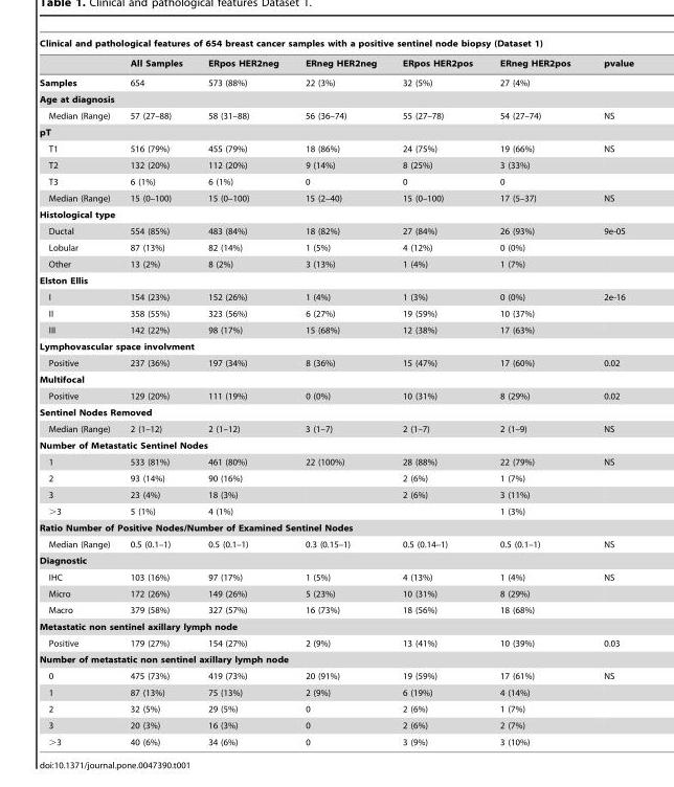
<table><thead><tr><td colspan="7">Clinical and pathological features of 654 breast cancer samples with a positive sentinel node biopsy (Dataset 1)</td></tr><tr><td></td><td>All Samples</td><td>ERpos HER2neg</td><td>ERneg HER2neg</td><td>ERpos HER2pos</td><td>ERneg HER2pos</td><td>pvalue</td></tr></thead><tbody><tr><td>Samples</td><td>654</td><td>573 (88%)</td><td>22 (3%)</td><td>32 (5%)</td><td>27 (4%)</td><td></td></tr><tr><td colspan="7">Age at diagnosis</td></tr><tr><td>Median (Range)</td><td>57 (27–88)</td><td>58 (31–88)</td><td>56 (36–74)</td><td>55 (27–78)</td><td>54 (27–74)</td><td>NS</td></tr><tr><td colspan="7">pT</td></tr><tr><td>T1</td><td>516 (79%)</td><td>455 (79%)</td><td>18 (86%)</td><td>24 (75%)</td><td>19 (66%)</td><td>NS</td></tr><tr><td>T2</td><td>132 (20%)</td><td>112 (20%)</td><td>9 (14%)</td><td>8 (25%)</td><td>3 (33%)</td><td></td></tr><tr><td>T3</td><td>6 (1%)</td><td>6 (1%)</td><td>0</td><td>0</td><td>0</td><td></td></tr><tr><td>Median (Range)</td><td>15 (0–100)</td><td>15 (0–100)</td><td>15 (2–40)</td><td>15 (0–100)</td><td>17 (5–37)</td><td>NS</td></tr><tr><td colspan="7">Histological type</td></tr><tr><td>Ductal</td><td>554 (85%)</td><td>483 (84%)</td><td>18 (82%)</td><td>27 (84%)</td><td>26 (93%)</td><td>9e-05</td></tr><tr><td>Lobular</td><td>87 (13%)</td><td>82 (14%)</td><td>1 (5%)</td><td>4 (12%)</td><td>0 (0%)</td><td></td></tr><tr><td>Other</td><td>13 (2%)</td><td>8 (2%)</td><td>3 (13%)</td><td>1 (4%)</td><td>1 (7%)</td><td></td></tr><tr><td colspan="7">Elston Ellis</td></tr><tr><td>I</td><td>154 (23%)</td><td>152 (26%)</td><td>1 (4%)</td><td>1 (3%)</td><td>0 (0%)</td><td>2e-16</td></tr><tr><td>II</td><td>358 (55%)</td><td>323 (56%)</td><td>6 (27%)</td><td>19 (59%)</td><td>10 (37%)</td><td></td></tr><tr><td>III</td><td>142 (22%)</td><td>98 (17%)</td><td>15 (68%)</td><td>12 (38%)</td><td>17 (63%)</td><td></td></tr><tr><td colspan="7">Lymphovascular space involvment</td></tr><tr><td>Positive</td><td>237 (36%)</td><td>197 (34%)</td><td>8 (36%)</td><td>15 (47%)</td><td>17 (60%)</td><td>0.02</td></tr><tr><td colspan="7">Multifocal</td></tr><tr><td>Positive</td><td>129 (20%)</td><td>111 (19%)</td><td>0 (0%)</td><td>10 (31%)</td><td>8 (29%)</td><td>0.02</td></tr><tr><td colspan="7">Sentinel Nodes Removed</td></tr><tr><td>Median (Range)</td><td>2 (1–12)</td><td>2 (1–12)</td><td>3 (1–7)</td><td>2 (1–7)</td><td>2 (1–9)</td><td>NS</td></tr><tr><td colspan="7">Number of Metastatic Sentinel Nodes</td></tr><tr><td>1</td><td>533 (81%)</td><td>461 (80%)</td><td>22 (100%)</td><td>28 (88%)</td><td>22 (79%)</td><td>NS</td></tr><tr><td>2</td><td>93 (14%)</td><td>90 (16%)</td><td></td><td>2 (6%)</td><td>1 (7%)</td><td></td></tr><tr><td>3</td><td>23 (4%)</td><td>18 (3%)</td><td></td><td>2 (6%)</td><td>3 (11%)</td><td></td></tr><tr><td>&gt;3</td><td>5 (1%)</td><td>4 (1%)</td><td></td><td></td><td>1 (3%)</td><td></td></tr><tr><td colspan="7">Ratio Number of Positive Nodes/Number of Examined Sentinel Nodes</td></tr><tr><td>Median (Range)</td><td>0.5 (0.1–1)</td><td>0.5 (0.1–1)</td><td>0.3 (0.15–1)</td><td>0.5 (0.14–1)</td><td>0.5 (0.1–1)</td><td>NS</td></tr><tr><td colspan="7">Diagnostic</td></tr><tr><td>IHC</td><td>103 (16%)</td><td>97 (17%)</td><td>1 (5%)</td><td>4 (13%)</td><td>1 (4%)</td><td>NS</td></tr><tr><td>Micro</td><td>172 (26%)</td><td>149 (26%)</td><td>5 (23%)</td><td>10 (31%)</td><td>8 (29%)</td><td></td></tr><tr><td>Macro</td><td>379 (58%)</td><td>327 (57%)</td><td>16 (73%)</td><td>18 (56%)</td><td>18 (68%)</td><td></td></tr><tr><td colspan="7">Metastatic non sentinel axillary lymph node</td></tr><tr><td>Positive</td><td>179 (27%)</td><td>154 (27%)</td><td>2 (9%)</td><td>13 (41%)</td><td>10 (39%)</td><td>0.03</td></tr><tr><td colspan="7">Number of metastatic non sentinel axillary lymph node</td></tr><tr><td>0</td><td>475 (73%)</td><td>419 (73%)</td><td>20 (91%)</td><td>19 (59%)</td><td>17 (61%)</td><td>NS</td></tr><tr><td>1</td><td>87 (13%)</td><td>75 (13%)</td><td>2 (9%)</td><td>6 (19%)</td><td>4 (14%)</td><td></td></tr><tr><td>2</td><td>32 (5%)</td><td>29 (5%)</td><td>0</td><td>2 (6%)</td><td>1 (7%)</td><td></td></tr><tr><td>3</td><td>20 (3%)</td><td>16 (3%)</td><td>0</td><td>2 (6%)</td><td>2 (7%)</td><td></td></tr><tr><td>&gt;3</td><td>40 (6%)</td><td>34 (6%)</td><td>0</td><td>3 (9%)</td><td>3 (10%)</td><td></td></tr></tbody></table>